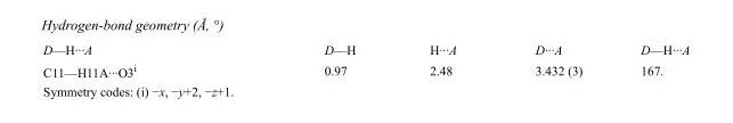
<table><tbody><tr><td>D—H···A</td><td>D—H</td><td>H···A</td><td>D···A</td><td>D—H···A</td></tr><tr><td>C11—H11A···O3<sup>i</sup></td><td>0.97</td><td>2.48</td><td>3.432 (3)</td><td>167.</td></tr></tbody></table>